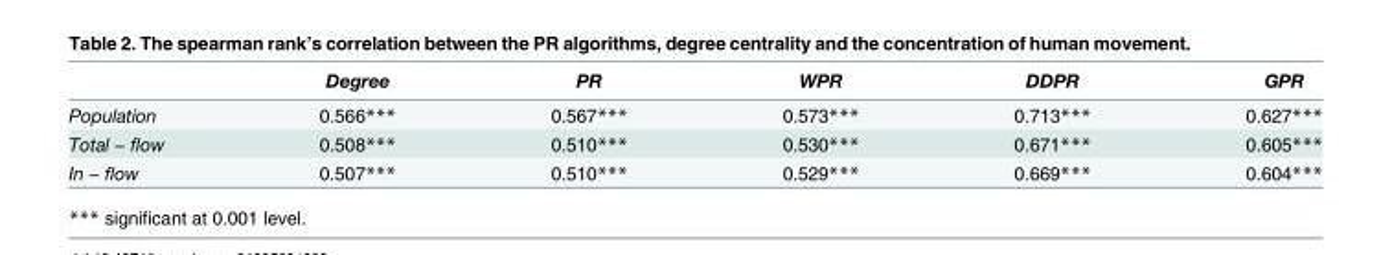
<table><thead><tr><td></td><td>Degree</td><td>PR</td><td>WPR</td><td>DDPR</td><td>GPR</td></tr></thead><tbody><tr><td>Population</td><td>0.566***</td><td>0.567***</td><td>0.573***</td><td>0.713***</td><td>0.627***</td></tr><tr><td>Total − flow</td><td>0.508***</td><td>0.510***</td><td>0.530***</td><td>0.671***</td><td>0.605***</td></tr><tr><td>In − flow</td><td>0.507***</td><td>0.510***</td><td>0.529***</td><td>0.669***</td><td>0.604***</td></tr></tbody></table>